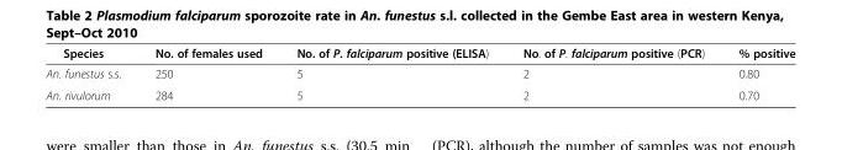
<table><thead><tr><td>Species</td><td>No. of females used</td><td>No. of P. falciparum positive (ELISA)</td><td>No. of P. falciparum positive (PCR)</td><td>% positive</td></tr></thead><tbody><tr><td>An. funestus s.s.</td><td>250</td><td>5</td><td>2</td><td>0.80</td></tr><tr><td>An. rivulorum</td><td>284</td><td>5</td><td>2</td><td>0.70</td></tr></tbody></table>